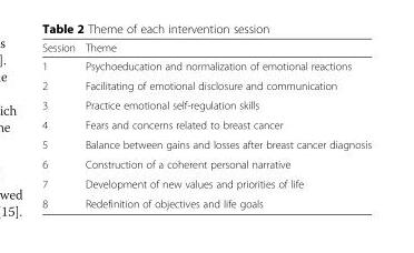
<table><tbody><tr><td>Session</td><td>Theme</td></tr><tr><td>1</td><td>Psychoeducation and normalization of emotional reactions</td></tr><tr><td>2</td><td>Facilitating of emotional disclosure and communication</td></tr><tr><td>3</td><td>Practice emotional self-regulation skills</td></tr><tr><td>4</td><td>Fears and concerns related to breast cancer</td></tr><tr><td>5</td><td>Balance between gains and losses after breast cancer diagnosis</td></tr><tr><td>6</td><td>Construction of a coherent personal narrative</td></tr><tr><td>7</td><td>Development of new values and priorities of life</td></tr><tr><td>8</td><td>Redefinition of objectives and life goals</td></tr></tbody></table>